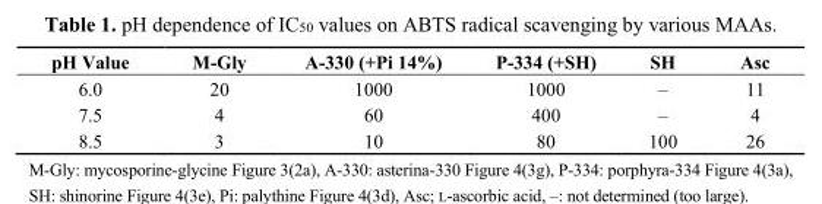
<table><thead><tr><td>pH Value</td><td>M-Gly</td><td>A-330 (+Pi 14%)</td><td>P-334 (+SH)</td><td>SH</td><td>Asc</td></tr></thead><tbody><tr><td>6.0</td><td>20</td><td>1000</td><td>1000</td><td>–</td><td>11</td></tr><tr><td>7.5</td><td>4</td><td>60</td><td>400</td><td>–</td><td>4</td></tr><tr><td>8.5</td><td>3</td><td>10</td><td>80</td><td>100</td><td>26</td></tr></tbody></table>